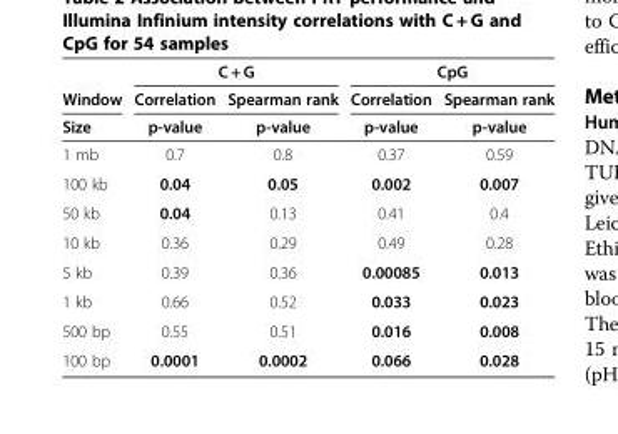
<table><thead><tr><td rowspan="3">Window Size</td><td colspan="2">C + G</td><td colspan="2">CpG</td></tr><tr><td rowspan="2">Correlation p-value</td><td rowspan="2">Spearman rank p-value</td><td rowspan="2">Correlation p-value</td><td rowspan="2">Spearman rank p-value</td></tr><tr></tr></thead><tbody><tr><td>1 mb</td><td>0.7</td><td>0.8</td><td>0.37</td><td>0.59</td></tr><tr><td>100 kb</td><td>0.04</td><td>0.05</td><td>0.002</td><td>0.007</td></tr><tr><td>50 kb</td><td>0.04</td><td>0.13</td><td>0.41</td><td>0.4</td></tr><tr><td>10 kb</td><td>0.36</td><td>0.29</td><td>0.49</td><td>0.28</td></tr><tr><td>5 kb</td><td>0.39</td><td>0.36</td><td>0.00085</td><td>0.013</td></tr><tr><td>1 kb</td><td>0.66</td><td>0.52</td><td>0.033</td><td>0.023</td></tr><tr><td>500 bp</td><td>0.55</td><td>0.51</td><td>0.016</td><td>0.008</td></tr><tr><td>100 bp</td><td>0.0001</td><td>0.0002</td><td>0.066</td><td>0.028</td></tr></tbody></table>